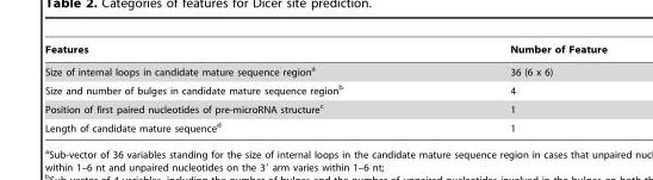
<table><thead><tr><td>Features</td><td>Number of Feature</td></tr></thead><tbody><tr><td>Size of internal loops in candidate mature sequence region<sup>a</sup></td><td>36 (6 x 6)</td></tr><tr><td>Size and number of bulges in candidate mature sequence region<sup>b</sup></td><td>4</td></tr><tr><td>Position of first paired nucleotides of pre-microRNA structure<sup>c</sup></td><td>1</td></tr><tr><td>Length of candidate mature sequence<sup>d</sup></td><td>1</td></tr></tbody></table>